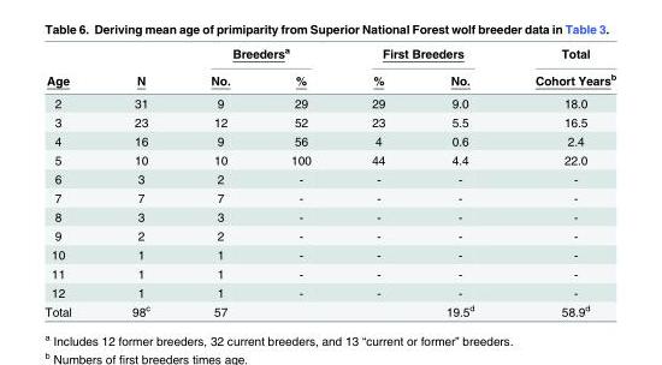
<table><thead><tr><td rowspan="2">Age</td><td rowspan="2">N</td><td colspan="2">Breeders<sup>a</sup></td><td colspan="2">First Breeders</td><td rowspan="2">Total Cohort Yearsb</td></tr><tr><td>No.</td><td>%</td><td>%</td><td>No.</td></tr></thead><tbody><tr><td>2</td><td>31</td><td>9</td><td>29</td><td>29</td><td>9.0</td><td>18.0</td></tr><tr><td>3</td><td>23</td><td>12</td><td>52</td><td>23</td><td>5.5</td><td>16.5</td></tr><tr><td>4</td><td>16</td><td>9</td><td>56</td><td>4</td><td>0.6</td><td>2.4</td></tr><tr><td>5</td><td>10</td><td>10</td><td>100</td><td>44</td><td>4.4</td><td>22.0</td></tr><tr><td>6</td><td>3</td><td>2</td><td>-</td><td>-</td><td>-</td><td>-</td></tr><tr><td>7</td><td>7</td><td>7</td><td>-</td><td>-</td><td>-</td><td>-</td></tr><tr><td>8</td><td>3</td><td>3</td><td>-</td><td>-</td><td>-</td><td>-</td></tr><tr><td>9</td><td>2</td><td>2</td><td>-</td><td>-</td><td>-</td><td>-</td></tr><tr><td>10</td><td>1</td><td>1</td><td>-</td><td>-</td><td>-</td><td>-</td></tr><tr><td>11</td><td>1</td><td>1</td><td>-</td><td>-</td><td>-</td><td>-</td></tr><tr><td>12</td><td>1</td><td>1</td><td>-</td><td>-</td><td>-</td><td>-</td></tr><tr><td>Total</td><td>98<sup>c</sup></td><td>57</td><td></td><td></td><td>19.5<sup>d</sup></td><td>58.9<sup>d</sup></td></tr></tbody></table>